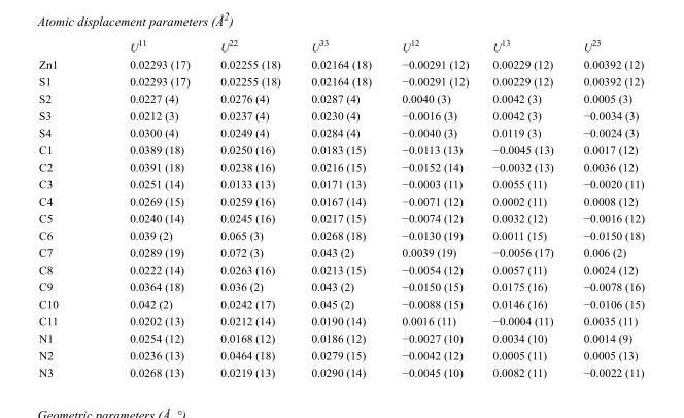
<table><thead><tr><td></td><td>U<sup>11</sup></td><td>U<sup>22</sup></td><td>U<sup>33</sup></td><td>U<sup>12</sup></td><td>U<sup>13</sup></td><td>U<sup>23</sup></td></tr></thead><tbody><tr><td>Zn1</td><td>0.02293 (17)</td><td>0.02255 (18)</td><td>0.02164 (18)</td><td>−0.00291 (12)</td><td>0.00229 (12)</td><td>0.00392 (12)</td></tr><tr><td>S1</td><td>0.02293 (17)</td><td>0.02255 (18)</td><td>0.02164 (18)</td><td>−0.00291 (12)</td><td>0.00229 (12)</td><td>0.00392 (12)</td></tr><tr><td>S2</td><td>0.0227 (4)</td><td>0.0276 (4)</td><td>0.0287 (4)</td><td>0.0040 (3)</td><td>0.0042 (3)</td><td>0.0005 (3)</td></tr><tr><td>S3</td><td>0.0212 (3)</td><td>0.0237 (4)</td><td>0.0230 (4)</td><td>−0.0016 (3)</td><td>0.0042 (3)</td><td>−0.0034 (3)</td></tr><tr><td>S4</td><td>0.0300 (4)</td><td>0.0249 (4)</td><td>0.0284 (4)</td><td>−0.0040 (3)</td><td>0.0119 (3)</td><td>−0.0024 (3)</td></tr><tr><td>C1</td><td>0.0389 (18)</td><td>0.0250 (16)</td><td>0.0183 (15)</td><td>−0.0113 (13)</td><td>−0.0045 (13)</td><td>0.0017 (12)</td></tr><tr><td>C2</td><td>0.0391 (18)</td><td>0.0238 (16)</td><td>0.0216 (15)</td><td>−0.0152 (14)</td><td>−0.0032 (13)</td><td>0.0036 (12)</td></tr><tr><td>C3</td><td>0.0251 (14)</td><td>0.0133 (13)</td><td>0.0171 (13)</td><td>−0.0003 (11)</td><td>0.0055 (11)</td><td>−0.0020 (11)</td></tr><tr><td>C4</td><td>0.0269 (15)</td><td>0.0259 (16)</td><td>0.0167 (14)</td><td>−0.0071 (12)</td><td>0.0002 (11)</td><td>0.0008 (12)</td></tr><tr><td>C5</td><td>0.0240 (14)</td><td>0.0245 (16)</td><td>0.0217 (15)</td><td>−0.0074 (12)</td><td>0.0032 (12)</td><td>−0.0016 (12)</td></tr><tr><td>C6</td><td>0.039 (2)</td><td>0.065 (3)</td><td>0.0268 (18)</td><td>−0.0130 (19)</td><td>0.0011 (15)</td><td>−0.0150 (18)</td></tr><tr><td>C7</td><td>0.0289 (19)</td><td>0.072 (3)</td><td>0.043 (2)</td><td>0.0039 (19)</td><td>−0.0056 (17)</td><td>0.006 (2)</td></tr><tr><td>C8</td><td>0.0222 (14)</td><td>0.0263 (16)</td><td>0.0213 (15)</td><td>−0.0054 (12)</td><td>0.0057 (11)</td><td>0.0024 (12)</td></tr><tr><td>C9</td><td>0.0364 (18)</td><td>0.036 (2)</td><td>0.043 (2)</td><td>−0.0150 (15)</td><td>0.0175 (16)</td><td>−0.0078 (16)</td></tr><tr><td>C10</td><td>0.042 (2)</td><td>0.0242 (17)</td><td>0.045 (2)</td><td>−0.0088 (15)</td><td>0.0146 (16)</td><td>−0.0106 (15)</td></tr><tr><td>C11</td><td>0.0202 (13)</td><td>0.0212 (14)</td><td>0.0190 (14)</td><td>0.0016 (11)</td><td>−0.0004 (11)</td><td>0.0035 (11)</td></tr><tr><td>N1</td><td>0.0254 (12)</td><td>0.0168 (12)</td><td>0.0186 (12)</td><td>−0.0027 (10)</td><td>0.0034 (10)</td><td>0.0014 (9)</td></tr><tr><td>N2</td><td>0.0236 (13)</td><td>0.0464 (18)</td><td>0.0279 (15)</td><td>−0.0042 (12)</td><td>0.0005 (11)</td><td>0.0005 (13)</td></tr><tr><td>N3</td><td>0.0268 (13)</td><td>0.0219 (13)</td><td>0.0290 (14)</td><td>−0.0045 (10)</td><td>0.0082 (11)</td><td>−0.0022 (11)</td></tr></tbody></table>